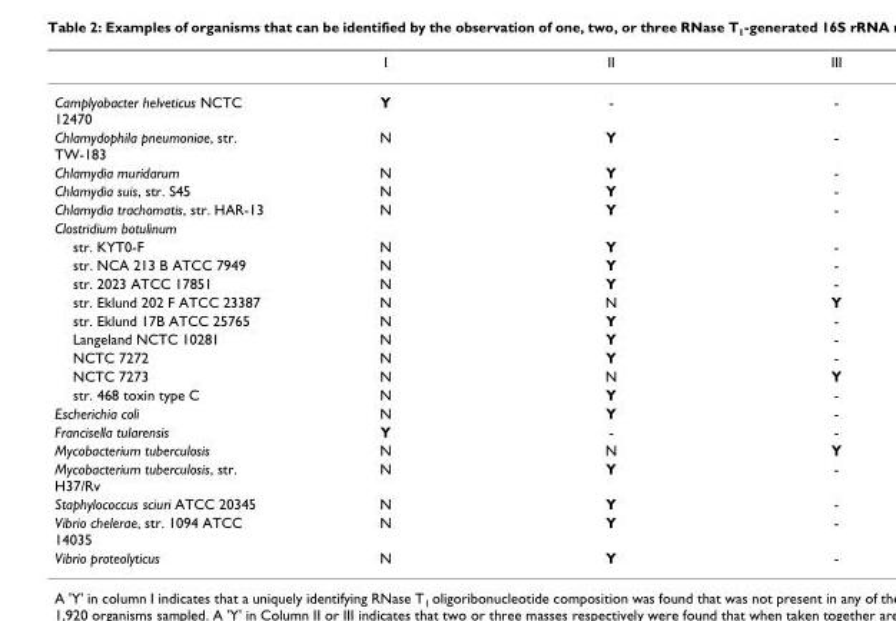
<table><thead><tr><td></td><td>I</td><td>II</td><td>III</td></tr></thead><tbody><tr><td>Camplyobacter helveticus NCTC 12470</td><td>Y</td><td>-</td><td>-</td></tr><tr><td>Chlamydophila pneumoniae, str. TW-183</td><td>N</td><td>Y</td><td>-</td></tr><tr><td>Chlamydia muridarum</td><td>N</td><td>Y</td><td>-</td></tr><tr><td>Chlamydia suis, str. S45</td><td>N</td><td>Y</td><td>-</td></tr><tr><td>Chlamydia trachomatis, str. HAR-13</td><td>N</td><td>Y</td><td>-</td></tr><tr><td colspan="4">Clostridium botulinum</td></tr><tr><td>str. KYT0-F</td><td>N</td><td>Y</td><td>-</td></tr><tr><td>str. NCA 213 B ATCC 7949</td><td>N</td><td>Y</td><td>-</td></tr><tr><td>str. 2023 ATCC 17851</td><td>N</td><td>Y</td><td>-</td></tr><tr><td>str. Eklund 202 F ATCC 23387</td><td>N</td><td>N</td><td>Y</td></tr><tr><td>str. Eklund 17B ATCC 25765</td><td>N</td><td>Y</td><td>-</td></tr><tr><td>Langeland NCTC 10281</td><td>N</td><td>Y</td><td>-</td></tr><tr><td>NCTC 7272</td><td>N</td><td>Y</td><td>-</td></tr><tr><td>NCTC 7273</td><td>N</td><td>N</td><td>Y</td></tr><tr><td>str. 468 toxin type C</td><td>N</td><td>Y</td><td>-</td></tr><tr><td>Escherichia coli</td><td>N</td><td>Y</td><td>-</td></tr><tr><td>Francisella tularensis</td><td>Y</td><td>-</td><td>-</td></tr><tr><td>Mycobacterium tuberculosis</td><td>N</td><td>N</td><td>Y</td></tr><tr><td>Mycobacterium tuberculosis, str. H37/Rv</td><td>N</td><td>Y</td><td>-</td></tr><tr><td>Staphylococcus sciuri ATCC 20345</td><td>N</td><td>Y</td><td>-</td></tr><tr><td>Vibrio chelerae, str. 1094 ATCC 14035</td><td>N</td><td>Y</td><td>-</td></tr><tr><td>Vibrio proteolyticus</td><td>N</td><td>Y</td><td>-</td></tr></tbody></table>